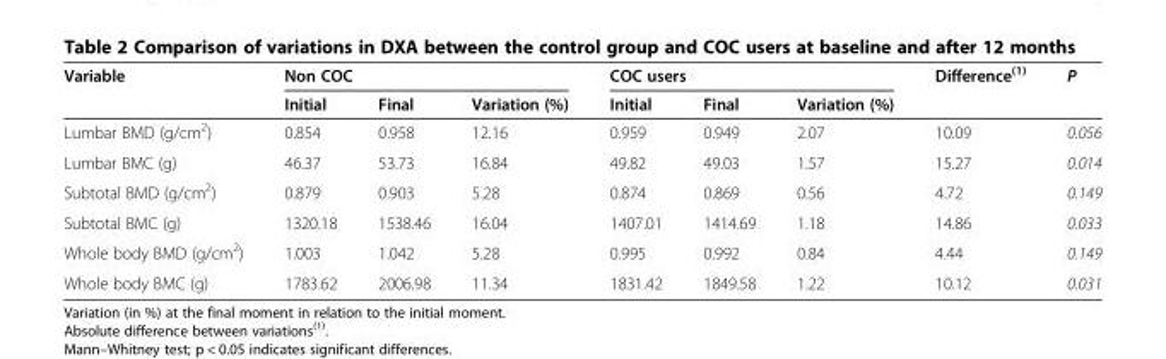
<table><thead><tr><td rowspan="2">Variable</td><td colspan="3">Non COC</td><td colspan="3">COC users</td><td rowspan="2">Difference<sup>(1)</sup></td><td rowspan="2">P</td></tr><tr><td>Initial</td><td>Final</td><td>Variation (%)</td><td>Initial</td><td>Final</td><td>Variation (%)</td></tr></thead><tbody><tr><td>Lumbar BMD (g/cm<sup>2</sup>)</td><td>0.854</td><td>0.958</td><td>12.16</td><td>0.959</td><td>0.949</td><td>2.07</td><td>10.09</td><td>0.056</td></tr><tr><td>Lumbar BMC (g)</td><td>46.37</td><td>53.73</td><td>16.84</td><td>49.82</td><td>49.03</td><td>1.57</td><td>15.27</td><td>0.014</td></tr><tr><td>Subtotal BMD (g/cm<sup>2</sup>)</td><td>0.879</td><td>0.903</td><td>5.28</td><td>0.874</td><td>0.869</td><td>0.56</td><td>4.72</td><td>0.149</td></tr><tr><td>Subtotal BMC (g)</td><td>1320.18</td><td>1538.46</td><td>16.04</td><td>1407.01</td><td>1414.69</td><td>1.18</td><td>14.86</td><td>0.033</td></tr><tr><td>Whole body BMD (g/cm<sup>2</sup>)</td><td>1.003</td><td>1.042</td><td>5.28</td><td>0.995</td><td>0.992</td><td>0.84</td><td>4.44</td><td>0.149</td></tr><tr><td>Whole body BMC (g)</td><td>1783.62</td><td>2006.98</td><td>11.34</td><td>1831.42</td><td>1849.58</td><td>1.22</td><td>10.12</td><td>0.031</td></tr></tbody></table>